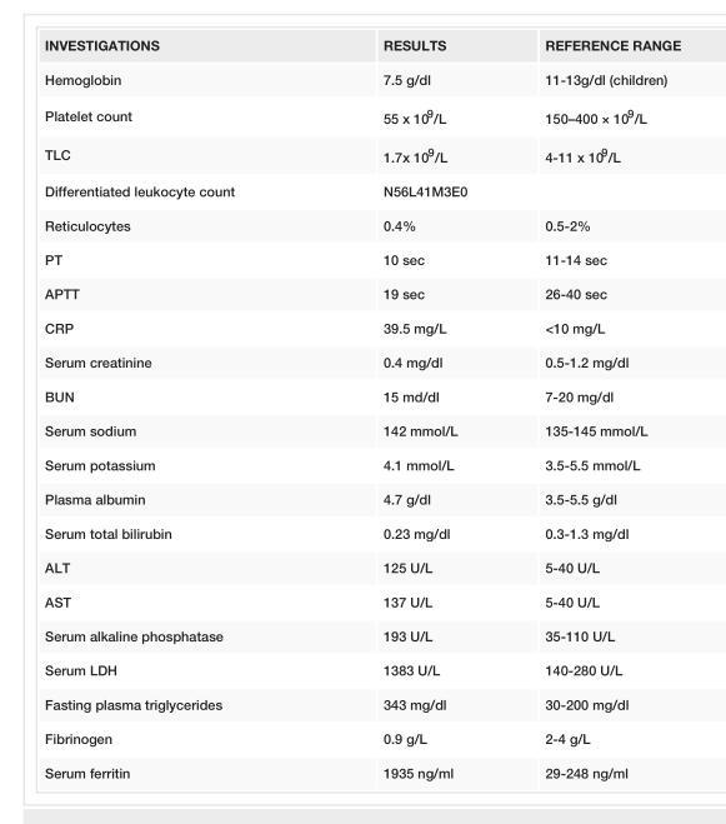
<table><tbody><tr><td>INVESTIGATIONS</td><td>RESULTS</td><td>REFERENCE RANGE</td></tr><tr><td>Hemoglobin</td><td>7.5 g/dl</td><td>11-13g/dl (children)</td></tr><tr><td>Platelet count</td><td>55 x 10<sup>9</sup>/L</td><td>150–400 × 10<sup>9</sup>/L</td></tr><tr><td>TLC</td><td>1.7x 10<sup>9</sup>/L</td><td>4-11 x 10<sup>9</sup>/L</td></tr><tr><td>Differentiated leukocyte count</td><td>N56L41M3E0</td><td></td></tr><tr><td>Reticulocytes</td><td>0.4%</td><td>0.5-2%</td></tr><tr><td>PT</td><td>10 sec</td><td>11-14 sec</td></tr><tr><td>APTT</td><td>19 sec</td><td>26-40 sec</td></tr><tr><td>CRP</td><td>39.5 mg/L</td><td>&lt;10 mg/L</td></tr><tr><td>Serum creatinine</td><td>0.4 mg/dl</td><td>0.5-1.2 mg/dl</td></tr><tr><td>BUN</td><td>15 md/dl</td><td>7-20 mg/dl</td></tr><tr><td>Serum sodium</td><td>142 mmol/L</td><td>135-145 mmol/L</td></tr><tr><td>Serum potassium</td><td>4.1 mmol/L</td><td>3.5-5.5 mmol/L</td></tr><tr><td>Plasma albumin</td><td>4.7 g/dl</td><td>3.5-5.5 g/dl</td></tr><tr><td>Serum total bilirubin</td><td>0.23 mg/dl</td><td>0.3-1.3 mg/dl</td></tr><tr><td>ALT</td><td>125 U/L</td><td>5-40 U/L</td></tr><tr><td>AST</td><td>137 U/L</td><td>5-40 U/L</td></tr><tr><td>Serum alkaline phosphatase</td><td>193 U/L</td><td>35-110 U/L</td></tr><tr><td>Serum LDH</td><td>1383 U/L</td><td>140-280 U/L</td></tr><tr><td>Fasting plasma triglycerides</td><td>343 mg/dl</td><td>30-200 mg/dl</td></tr><tr><td>Fibrinogen</td><td>0.9 g/L</td><td>2-4 g/L</td></tr><tr><td>Serum ferritin</td><td>1935 ng/ml</td><td>29-248 ng/ml</td></tr></tbody></table>